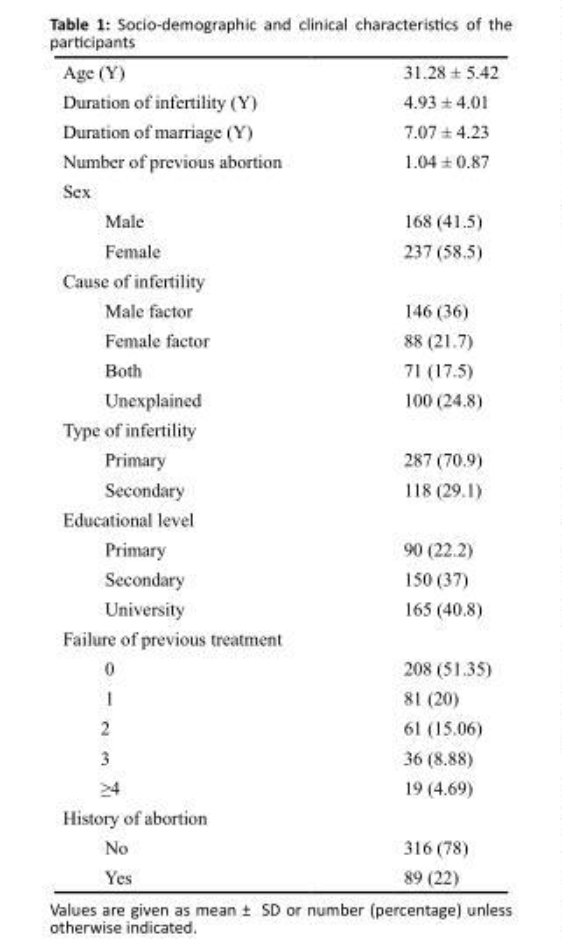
<table><tbody><tr><td>Age (Y)</td><td>31.28 ± 5.42</td></tr><tr><td>Duration of infertility (Y)</td><td>4.93 ± 4.01</td></tr><tr><td>Duration of marriage (Y)</td><td>7.07 ± 4.23</td></tr><tr><td>Number of previous abortion</td><td>1.04 ± 0.87</td></tr><tr><td colspan="2">Sex</td></tr><tr><td>Male</td><td>168 (41.5)</td></tr><tr><td>Female</td><td>237 (58.5)</td></tr><tr><td colspan="2">Cause of infertility</td></tr><tr><td>Male factor</td><td>146 (36)</td></tr><tr><td>Female factor</td><td>88 (21.7)</td></tr><tr><td>Both</td><td>71 (17.5)</td></tr><tr><td>Unexplained</td><td>100 (24.8)</td></tr><tr><td colspan="2">Type of infertility</td></tr><tr><td>Primary</td><td>287 (70.9)</td></tr><tr><td>Secondary</td><td>118 (29.1)</td></tr><tr><td colspan="2">Educational level</td></tr><tr><td>Primary</td><td>90 (22.2)</td></tr><tr><td>Secondary</td><td>150 (37)</td></tr><tr><td>University</td><td>165 (40.8)</td></tr><tr><td colspan="2">Failure of previous treatment</td></tr><tr><td>0</td><td>208 (51.35)</td></tr><tr><td>1</td><td>81 (20)</td></tr><tr><td>2</td><td>61 (15.06)</td></tr><tr><td>3</td><td>36 (8.88)</td></tr><tr><td>≥4</td><td>19 (4.69)</td></tr><tr><td colspan="2">History of abortion</td></tr><tr><td>No</td><td>316 (78)</td></tr><tr><td>Yes</td><td>89 (22)</td></tr></tbody></table>